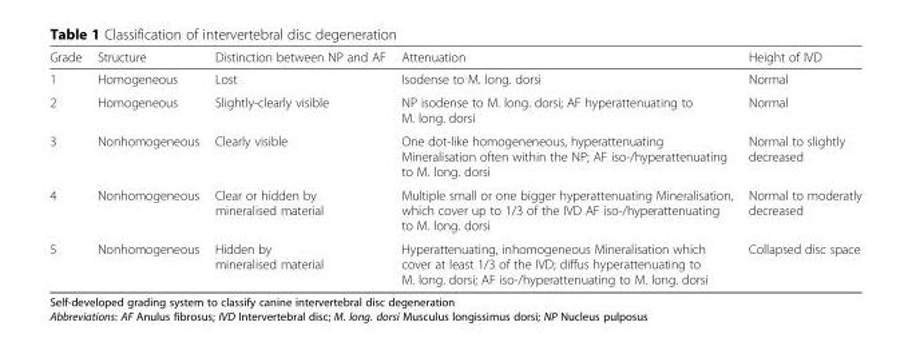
<table><thead><tr><td>Grade</td><td>Structure</td><td>Distinction between NP and AF</td><td>Attenuation</td><td>Height of IVD</td></tr></thead><tbody><tr><td>1</td><td>Homogeneous</td><td>Lost</td><td>Isodense to M. long. dorsi</td><td>Normal</td></tr><tr><td>2</td><td>Homogeneous</td><td>Slightly-clearly visible</td><td>NP isodense to M. long. dorsi; AF hyperattenuating to M. long. dorsi</td><td>Normal</td></tr><tr><td>3</td><td>Nonhomogeneous</td><td>Clearly visible</td><td>One dot-like homogeneneous, hyperattenuating Mineralisation often within the NP; AF iso-/hyperattenuating to M. long. dorsi</td><td>Normal to slightly decreased</td></tr><tr><td>4</td><td>Nonhomogeneous</td><td>Clear or hidden by mineralised material</td><td>Multiple small or one bigger hyperattenuating Mineralisation, which cover up to 1/3 of the IVD AF iso-/hyperattenuating to M. long. dorsi</td><td>Normal to moderatly decreased</td></tr><tr><td>5</td><td>Nonhomogeneous</td><td>Hidden by mineralised material</td><td>Hyperattenuating, inhomogeneous Mineralisation which cover at least 1/3 of the IVD; diffus hyperattenuating to M. long. dorsi; AF iso-/hyperattenuating to M. long. dorsi</td><td>Collapsed disc space</td></tr></tbody></table>